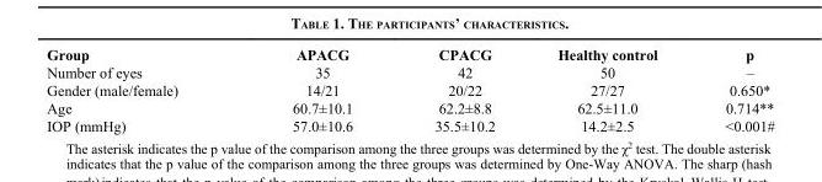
<table><thead><tr><td>Group</td><td>APACG</td><td>CPACG</td><td>Healthy control</td><td>p</td></tr></thead><tbody><tr><td>Number of eyes</td><td>35</td><td>42</td><td>50</td><td>–</td></tr><tr><td>Gender (male/female)</td><td>14/21</td><td>20/22</td><td>27/27</td><td>0.650*</td></tr><tr><td>Age</td><td>60.7±10.1</td><td>62.2±8.8</td><td>62.5±11.0</td><td>0.714**</td></tr><tr><td>IOP (mmHg)</td><td>57.0±10.6</td><td>35.5±10.2</td><td>14.2±2.5</td><td>&lt;0.001#</td></tr></tbody></table>